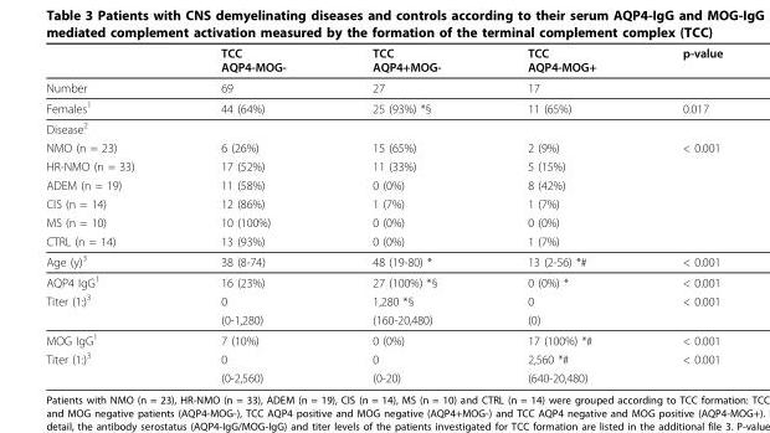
<table><thead><tr><td></td><td>TCC AQP4-MOG-</td><td>TCC AQP4+MOG-</td><td>TCC AQP4-MOG+</td><td>p-value</td></tr></thead><tbody><tr><td>Number</td><td>69</td><td>27</td><td>17</td><td></td></tr><tr><td>Females<sup>1</sup></td><td>44 (64%)</td><td>25 (93%) *§</td><td>11 (65%)</td><td>0.017</td></tr><tr><td colspan="5">Disease<sup>2</sup></td></tr><tr><td>NMO (n = 23)</td><td>6 (26%)</td><td>15 (65%)</td><td>2 (9%)</td><td>&lt; 0.001</td></tr><tr><td>HR-NMO (n = 33)</td><td>17 (52%)</td><td>11 (33%)</td><td>5 (15%)</td><td></td></tr><tr><td>ADEM (n = 19)</td><td>11 (58%)</td><td>0 (0%)</td><td>8 (42%)</td><td></td></tr><tr><td>CIS (n = 14)</td><td>12 (86%)</td><td>1 (7%)</td><td>1 (7%)</td><td></td></tr><tr><td>MS (n = 10)</td><td>10 (100%)</td><td>0 (0%)</td><td>0 (0%)</td><td></td></tr><tr><td>CTRL (n = 14)</td><td>13 (93%)</td><td>0 (0%)</td><td>1 (7%)</td><td></td></tr><tr><td>Age (y)<sup>3</sup></td><td>38 (8-74)</td><td>48 (19-80) *</td><td>13 (2-56) *#</td><td>&lt; 0.001</td></tr><tr><td>AQP4 IgG<sup>1</sup></td><td>16 (23%)</td><td>27 (100%) *§</td><td>0 (0%) *</td><td>&lt; 0.001</td></tr><tr><td rowspan="2">Titer (1:)<sup>3</sup></td><td>0</td><td>1,280 *§</td><td>0</td><td>&lt; 0.001</td></tr><tr><td>(0-1,280)</td><td>(160-20,480)</td><td>(0)</td><td></td></tr><tr><td>MOG IgG<sup>1</sup></td><td>7 (10%)</td><td>0 (0%)</td><td>17 (100%) *#</td><td>&lt; 0.001</td></tr><tr><td rowspan="2">Titer (1:)<sup>3</sup></td><td>0</td><td>0</td><td>2,560 *#</td><td>&lt; 0.001</td></tr><tr><td>(0-2,560)</td><td>(0-20)</td><td>(640-20,480)</td><td></td></tr></tbody></table>